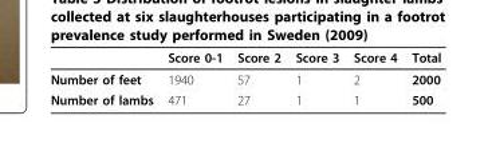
<table><thead><tr><td></td><td>Score 0-1</td><td>Score 2</td><td>Score 3</td><td>Score 4</td><td>Total</td></tr></thead><tbody><tr><td>Number of feet</td><td>1940</td><td>57</td><td>1</td><td>2</td><td>2000</td></tr><tr><td>Number of lambs</td><td>471</td><td>27</td><td>1</td><td>1</td><td>500</td></tr></tbody></table>